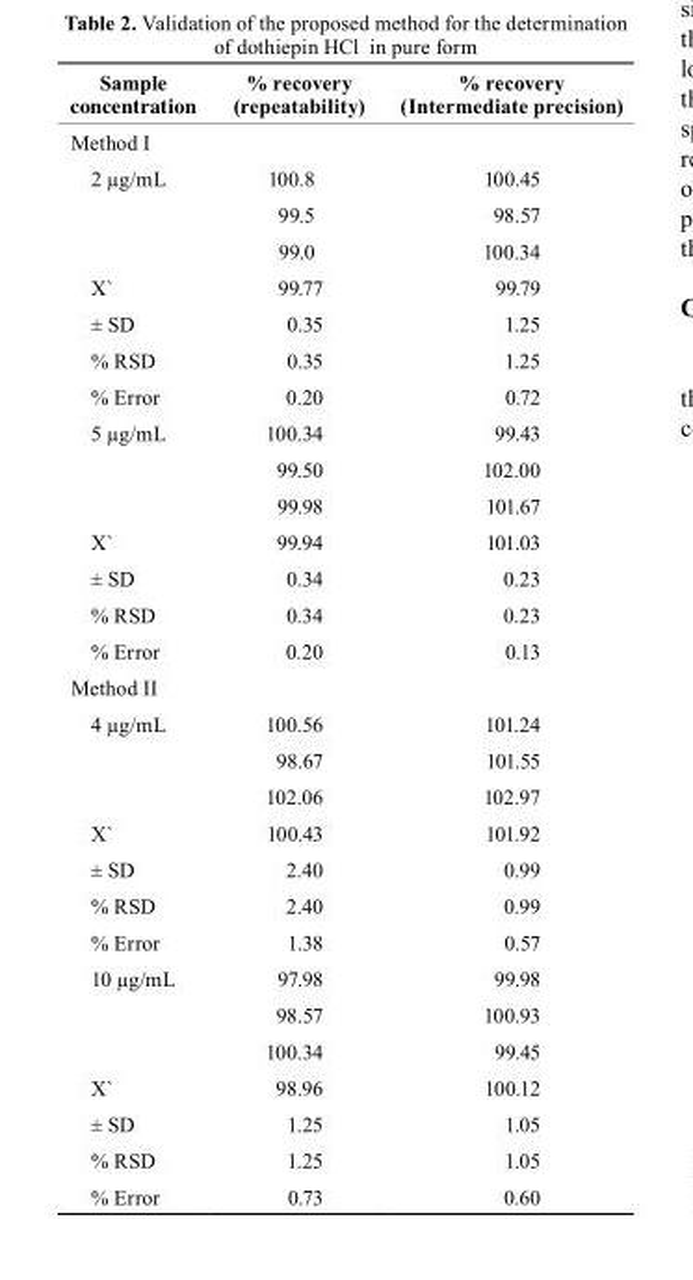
<table><thead><tr><td>Sample concentration</td><td>% recovery (repeatability)</td><td>% recovery (Intermediate precision)</td></tr></thead><tbody><tr><td colspan="3">Method I</td></tr><tr><td rowspan="3">2 µg/mL</td><td>100.8</td><td>100.45</td></tr><tr><td>99.5</td><td>98.57</td></tr><tr><td>99.0</td><td>100.34</td></tr><tr><td>X`</td><td>99.77</td><td>99.79</td></tr><tr><td>± SD</td><td>0.35</td><td>1.25</td></tr><tr><td>% RSD</td><td>0.35</td><td>1.25</td></tr><tr><td>% Error</td><td>0.20</td><td>0.72</td></tr><tr><td rowspan="3">5 µg/mL</td><td>100.34</td><td>99.43</td></tr><tr><td>99.50</td><td>102.00</td></tr><tr><td>99.98</td><td>101.67</td></tr><tr><td>X`</td><td>99.94</td><td>101.03</td></tr><tr><td>± SD</td><td>0.34</td><td>0.23</td></tr><tr><td>% RSD</td><td>0.34</td><td>0.23</td></tr><tr><td>% Error</td><td>0.20</td><td>0.13</td></tr><tr><td colspan="3">Method II</td></tr><tr><td rowspan="3">4 µg/mL</td><td>100.56</td><td>101.24</td></tr><tr><td>98.67</td><td>101.55</td></tr><tr><td>102.06</td><td>102.97</td></tr><tr><td>X`</td><td>100.43</td><td>101.92</td></tr><tr><td>± SD</td><td>2.40</td><td>0.99</td></tr><tr><td>% RSD</td><td>2.40</td><td>0.99</td></tr><tr><td>% Error</td><td>1.38</td><td>0.57</td></tr><tr><td rowspan="3">10 µg/mL</td><td>97.98</td><td>99.98</td></tr><tr><td>98.57</td><td>100.93</td></tr><tr><td>100.34</td><td>99.45</td></tr><tr><td>X`</td><td>98.96</td><td>100.12</td></tr><tr><td>± SD</td><td>1.25</td><td>1.05</td></tr><tr><td>% RSD</td><td>1.25</td><td>1.05</td></tr><tr><td>% Error</td><td>0.73</td><td>0.60</td></tr></tbody></table>